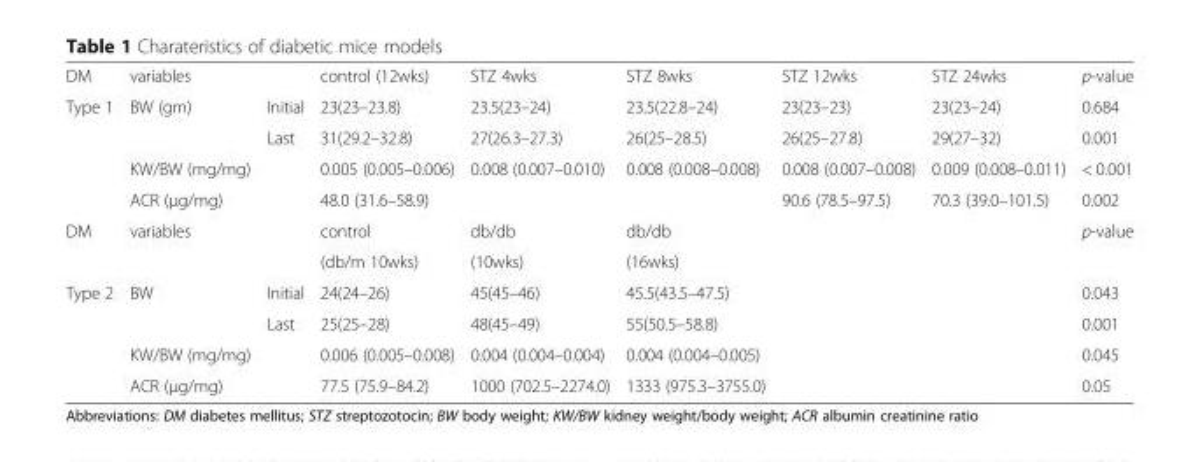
<table><tbody><tr><td>DM</td><td>variables</td><td></td><td>control (12wks)</td><td>STZ 4wks</td><td>STZ 8wks</td><td>STZ 12wks</td><td>STZ 24wks</td><td>p-value</td></tr><tr><td rowspan="4">Type 1</td><td>BW (gm)</td><td>Initial</td><td>23(23–23.8)</td><td>23.5(23–24)</td><td>23.5(22.8–24)</td><td>23(23–23)</td><td>23(23–24)</td><td>0.684</td></tr><tr><td></td><td>Last</td><td>31(29.2–32.8)</td><td>27(26.3–27.3)</td><td>26(25–28.5)</td><td>26(25–27.8)</td><td>29(27–32)</td><td>0.001</td></tr><tr><td>KW/BW (mg/mg)</td><td></td><td>0.005 (0.005–0.006)</td><td>0.008 (0.007–0.010)</td><td>0.008 (0.008–0.008)</td><td>0.008 (0.007–0.008)</td><td>0.009 (0.008–0.011)</td><td>&lt; 0.001</td></tr><tr><td>ACR (μg/mg)</td><td></td><td>48.0 (31.6–58.9)</td><td></td><td></td><td>90.6 (78.5–97.5)</td><td>70.3 (39.0–101.5)</td><td>0.002</td></tr><tr><td rowspan="2">DM</td><td>variables</td><td></td><td>control</td><td>db/db</td><td>db/db</td><td></td><td></td><td>p-value</td></tr><tr><td></td><td></td><td>(db/m 10wks)</td><td>(10wks)</td><td>(16wks)</td><td></td><td></td><td></td></tr><tr><td rowspan="4">Type 2</td><td>BW</td><td>Initial</td><td>24(24–26)</td><td>45(45–46)</td><td>45.5(43.5–47.5)</td><td></td><td></td><td>0.043</td></tr><tr><td></td><td>Last</td><td>25(25–28)</td><td>48(45–49)</td><td>55(50.5–58.8)</td><td></td><td></td><td>0.001</td></tr><tr><td>KW/BW (mg/mg)</td><td></td><td>0.006 (0.005–0.008)</td><td>0.004 (0.004–0.004)</td><td>0.004 (0.004–0.005)</td><td></td><td></td><td>0.045</td></tr><tr><td>ACR (μg/mg)</td><td></td><td>77.5 (75.9–84.2)</td><td>1000 (702.5–2274.0)</td><td>1333 (975.3–3755.0)</td><td></td><td></td><td>0.05</td></tr></tbody></table>